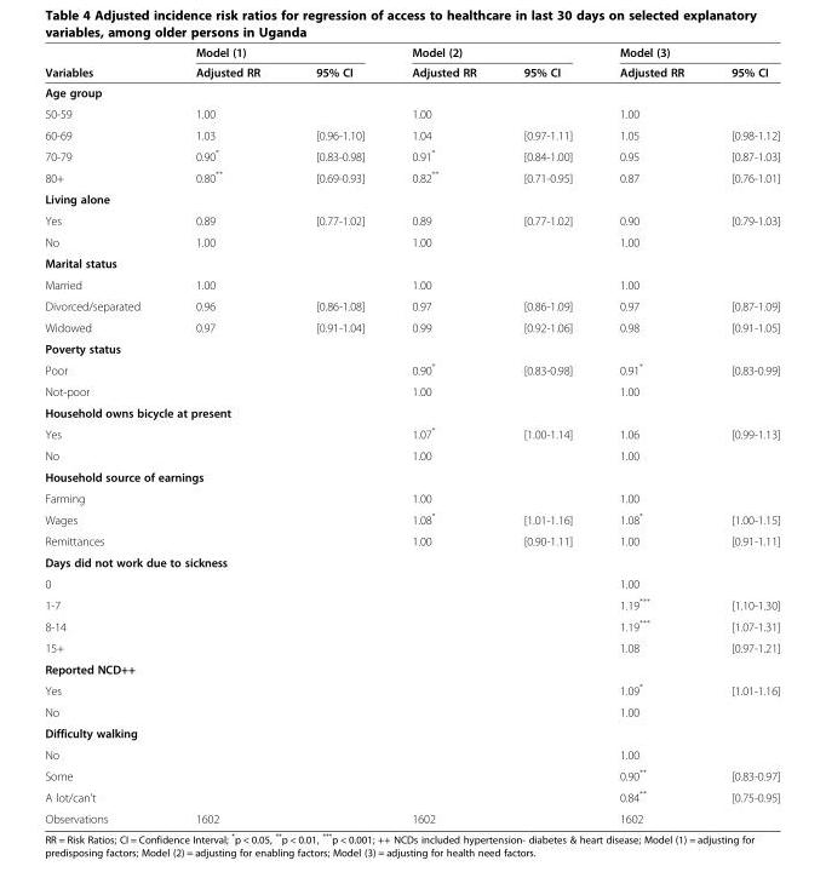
<table><thead><tr><td rowspan="2">Variables</td><td colspan="2">Model (1)</td><td colspan="2">Model (2)</td><td colspan="2">Model (3)</td></tr><tr><td>Adjusted RR</td><td>95% CI</td><td>Adjusted RR</td><td>95% CI</td><td>Adjusted RR</td><td>95% CI</td></tr></thead><tbody><tr><td colspan="7">Age group</td></tr><tr><td>50-59</td><td>1.00</td><td></td><td>1.00</td><td></td><td>1.00</td><td></td></tr><tr><td>60-69</td><td>1.03</td><td>[0.96-1.10]</td><td>1.04</td><td>[0.97-1.11]</td><td>1.05</td><td>[0.98-1.12]</td></tr><tr><td>70-79</td><td>0.90*</td><td>[0.83-0.98]</td><td>0.91*</td><td>[0.84-1.00]</td><td>0.95</td><td>[0.87-1.03]</td></tr><tr><td>80+</td><td>0.80**</td><td>[0.69-0.93]</td><td>0.82**</td><td>[0.71-0.95]</td><td>0.87</td><td>[0.76-1.01]</td></tr><tr><td colspan="7">Living alone</td></tr><tr><td>Yes</td><td>0.89</td><td>[0.77-1.02]</td><td>0.89</td><td>[0.77-1.02]</td><td>0.90</td><td>[0.79-1.03]</td></tr><tr><td>No</td><td>1.00</td><td></td><td>1.00</td><td></td><td>1.00</td><td></td></tr><tr><td colspan="7">Marital status</td></tr><tr><td>Married</td><td>1.00</td><td></td><td>1.00</td><td></td><td>1.00</td><td></td></tr><tr><td>Divorced/separated</td><td>0.96</td><td>[0.86-1.08]</td><td>0.97</td><td>[0.86-1.09]</td><td>0.97</td><td>[0.87-1.09]</td></tr><tr><td>Widowed</td><td>0.97</td><td>[0.91-1.04]</td><td>0.99</td><td>[0.92-1.06]</td><td>0.98</td><td>[0.91-1.05]</td></tr><tr><td colspan="7">Poverty status</td></tr><tr><td>Poor</td><td></td><td></td><td>0.90*</td><td>[0.83-0.98]</td><td>0.91*</td><td>[0.83-0.99]</td></tr><tr><td>Not-poor</td><td></td><td></td><td>1.00</td><td></td><td>1.00</td><td></td></tr><tr><td colspan="7">Household owns bicycle at present</td></tr><tr><td>Yes</td><td></td><td></td><td>1.07*</td><td>[1.00-1.14]</td><td>1.06</td><td>[0.99-1.13]</td></tr><tr><td>No</td><td></td><td></td><td>1.00</td><td></td><td>1.00</td><td></td></tr><tr><td colspan="7">Household source of earnings</td></tr><tr><td>Farming</td><td></td><td></td><td>1.00</td><td></td><td>1.00</td><td></td></tr><tr><td>Wages</td><td></td><td></td><td>1.08*</td><td>[1.01-1.16]</td><td>1.08*</td><td>[1.00-1.15]</td></tr><tr><td>Remittances</td><td></td><td></td><td>1.00</td><td>[0.90-1.11]</td><td>1.00</td><td>[0.91-1.11]</td></tr><tr><td colspan="7">Days did not work due to sickness</td></tr><tr><td>0</td><td></td><td></td><td></td><td></td><td>1.00</td><td></td></tr><tr><td>1-7</td><td></td><td></td><td></td><td></td><td>1.19***</td><td>[1.10-1.30]</td></tr><tr><td>8-14</td><td></td><td></td><td></td><td></td><td>1.19***</td><td>[1.07-1.31]</td></tr><tr><td>15+</td><td></td><td></td><td></td><td></td><td>1.08</td><td>[0.97-1.21]</td></tr><tr><td colspan="7">Reported NCD++</td></tr><tr><td>Yes</td><td></td><td></td><td></td><td></td><td>1.09*</td><td>[1.01-1.16]</td></tr><tr><td>No</td><td></td><td></td><td></td><td></td><td>1.00</td><td></td></tr><tr><td colspan="7">Difficulty walking</td></tr><tr><td colspan="3">No</td><td></td><td></td><td>1.00</td><td></td></tr><tr><td>Some</td><td></td><td></td><td></td><td></td><td>0.90**</td><td>[0.83-0.97]</td></tr><tr><td>A lot/can’t</td><td></td><td></td><td></td><td></td><td>0.84**</td><td>[0.75-0.95]</td></tr><tr><td>Observations</td><td>1602</td><td></td><td>1602</td><td></td><td>1602</td><td></td></tr></tbody></table>